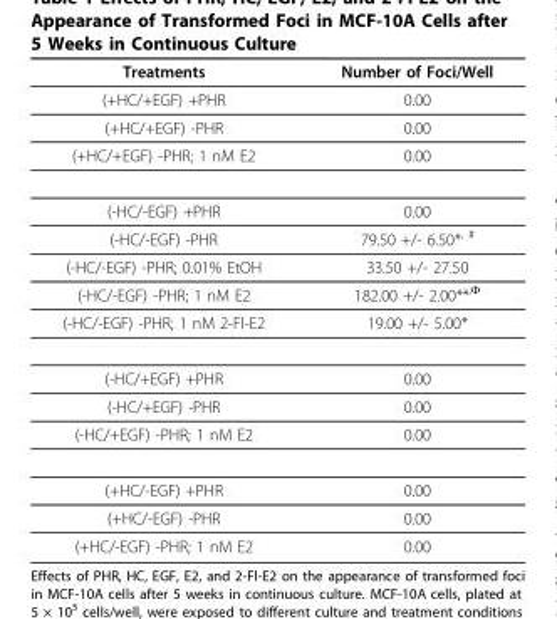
<table><thead><tr><td>Treatments</td><td>Number of Foci/Well</td></tr></thead><tbody><tr><td>(+HC/+EGF) +PHR</td><td>0.00</td></tr><tr><td>(+HC/+EGF) -PHR</td><td>0.00</td></tr><tr><td>(+HC/+EGF) -PHR; 1 nM E2</td><td>0.00</td></tr><tr><td>(-HC/-EGF) +PHR</td><td>0.00</td></tr><tr><td>(-HC/-EGF) -PHR</td><td>79.50 +/- 6.50*, #</td></tr><tr><td>(-HC/-EGF) -PHR; 0.01% EtOH</td><td>33.50 +/- 27.50</td></tr><tr><td>(-HC/-EGF) -PHR; 1 nM E2</td><td>182.00 +/- 2.00**,Φ</td></tr><tr><td>(-HC/-EGF) -PHR; 1 nM 2-Fl-E2</td><td>19.00 +/- 5.00*</td></tr><tr><td>(-HC/+EGF) +PHR</td><td>0.00</td></tr><tr><td>(-HC/+EGF) -PHR</td><td>0.00</td></tr><tr><td>(-HC/+EGF) -PHR; 1 nM E2</td><td>0.00</td></tr><tr><td>(+HC/-EGF) +PHR</td><td>0.00</td></tr><tr><td>(+HC/-EGF) -PHR</td><td>0.00</td></tr><tr><td>(+HC/-EGF) -PHR; 1 nM E2</td><td>0.00</td></tr></tbody></table>